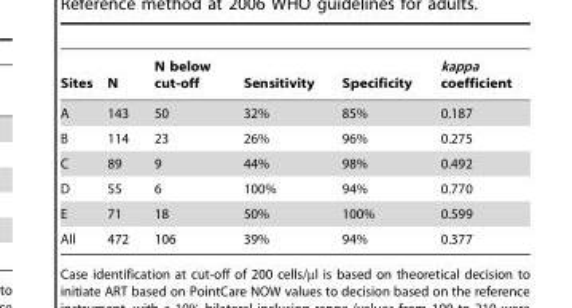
<table><thead><tr><td>Sites</td><td>N</td><td>N below cut-off</td><td>Sensitivity</td><td>Specificity</td><td>kappa coefficient</td></tr></thead><tbody><tr><td>A</td><td>143</td><td>50</td><td>32%</td><td>85%</td><td>0.187</td></tr><tr><td>B</td><td>114</td><td>23</td><td>26%</td><td>96%</td><td>0.275</td></tr><tr><td>C</td><td>89</td><td>9</td><td>44%</td><td>98%</td><td>0.492</td></tr><tr><td>D</td><td>55</td><td>6</td><td>100%</td><td>94%</td><td>0.770</td></tr><tr><td>E</td><td>71</td><td>18</td><td>50%</td><td>100%</td><td>0.599</td></tr><tr><td>All</td><td>472</td><td>106</td><td>39%</td><td>94%</td><td>0.377</td></tr></tbody></table>